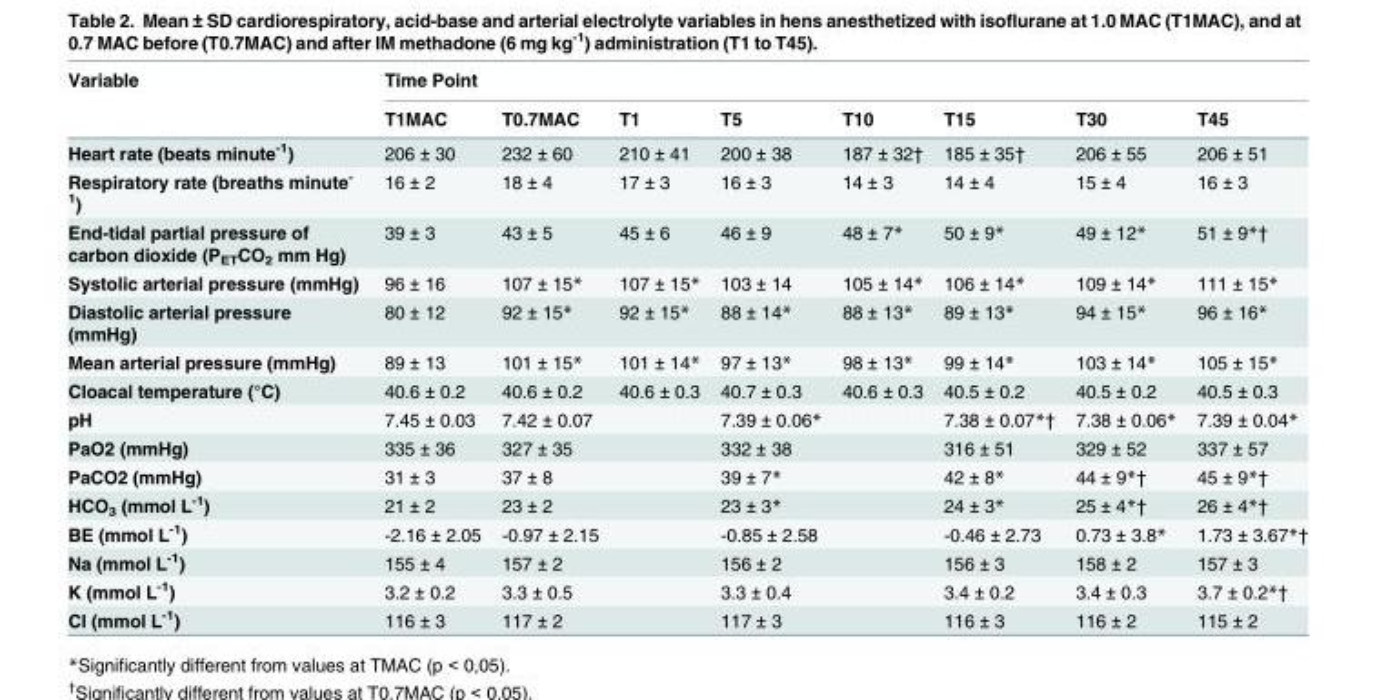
<table><thead><tr><td rowspan="2">Variable</td><td colspan="8">Time Point</td></tr><tr><td>T1MAC</td><td>T0.7MAC</td><td>T1</td><td>T5</td><td>T10</td><td>T15</td><td>T30</td><td>T45</td></tr></thead><tbody><tr><td>Heart rate (beats minute<sup>-1</sup>)</td><td>206 ± 30</td><td>232 ± 60</td><td>210 ± 41</td><td>200 ± 38</td><td>187 ± 32†</td><td>185 ± 35†</td><td>206 ± 55</td><td>206 ± 51</td></tr><tr><td>Respiratory rate (breaths minute<sup>- 1</sup>)</td><td>16 ± 2</td><td>18 ± 4</td><td>17 ± 3</td><td>16 ± 3</td><td>14 ± 3</td><td>14 ± 4</td><td>15 ± 4</td><td>16 ± 3</td></tr><tr><td>End-tidal partial pressure of carbon dioxide (P<sub>ET</sub>CO<sub>2</sub> mm Hg)</td><td>39 ± 3</td><td>43 ± 5</td><td>45 ± 6</td><td>46 ± 9</td><td>48 ± 7*</td><td>50 ± 9*</td><td>49 ± 12*</td><td>51 ± 9*†</td></tr><tr><td>Systolic arterial pressure (mmHg)</td><td>96 ± 16</td><td>107 ± 15*</td><td>107 ± 15*</td><td>103 ± 14</td><td>105 ± 14*</td><td>106 ± 14*</td><td>109 ± 14*</td><td>111 ± 15*</td></tr><tr><td>Diastolic arterial pressure (mmHg)</td><td>80 ± 12</td><td>92 ± 15*</td><td>92 ± 15*</td><td>88 ± 14*</td><td>88 ± 13*</td><td>89 ± 13*</td><td>94 ± 15*</td><td>96 ± 16*</td></tr><tr><td>Mean arterial pressure (mmHg)</td><td>89 ± 13</td><td>101 ± 15*</td><td>101 ± 14*</td><td>97 ± 13*</td><td>98 ± 13*</td><td>99 ± 14*</td><td>103 ± 14*</td><td>105 ± 15*</td></tr><tr><td>Cloacal temperature (°C)</td><td>40.6 ± 0.2</td><td>40.6 ± 0.2</td><td>40.6 ± 0.3</td><td>40.7 ± 0.3</td><td>40.6 ± 0.3</td><td>40.5 ± 0.2</td><td>40.5 ± 0.2</td><td>40.5 ± 0.3</td></tr><tr><td>pH</td><td>7.45 ± 0.03</td><td>7.42 ± 0.07</td><td></td><td>7.39 ± 0.06*</td><td></td><td>7.38 ± 0.07*†</td><td>7.38 ± 0.06*</td><td>7.39 ± 0.04*</td></tr><tr><td>PaO2 (mmHg)</td><td>335 ± 36</td><td>327 ± 35</td><td></td><td>332 ± 38</td><td></td><td>316 ± 51</td><td>329 ± 52</td><td>337 ± 57</td></tr><tr><td>PaCO2 (mmHg)</td><td>31 ± 3</td><td>37 ± 8</td><td></td><td>39 ± 7*</td><td></td><td>42 ± 8*</td><td>44 ± 9*†</td><td>45 ± 9*†</td></tr><tr><td>HCO<sub>3</sub> (mmol L<sup>-1</sup>)</td><td>21 ± 2</td><td>23 ± 2</td><td></td><td>23 ± 3*</td><td></td><td>24 ± 3*</td><td>25 ± 4*†</td><td>26 ± 4*†</td></tr><tr><td>BE (mmol L<sup>-1</sup>)</td><td>-2.16 ± 2.05</td><td>-0.97 ± 2.15</td><td></td><td>-0.85 ± 2.58</td><td></td><td>-0.46 ± 2.73</td><td>0.73 ± 3.8*</td><td>1.73 ± 3.67*†</td></tr><tr><td>Na (mmol L<sup>-1</sup>)</td><td>155 ± 4</td><td>157 ± 2</td><td></td><td>156 ± 2</td><td></td><td>156 ± 3</td><td>158 ± 2</td><td>157 ± 3</td></tr><tr><td>K (mmol L<sup>-1</sup>)</td><td>3.2 ± 0.2</td><td>3.3 ± 0.5</td><td></td><td>3.3 ± 0.4</td><td></td><td>3.4 ± 0.2</td><td>3.4 ± 0.3</td><td>3.7 ± 0.2*†</td></tr><tr><td>Cl (mmol L<sup>-1</sup>)</td><td>116 ± 3</td><td>117 ± 2</td><td></td><td>117 ± 3</td><td></td><td>116 ± 3</td><td>116 ± 2</td><td>115 ± 2</td></tr></tbody></table>